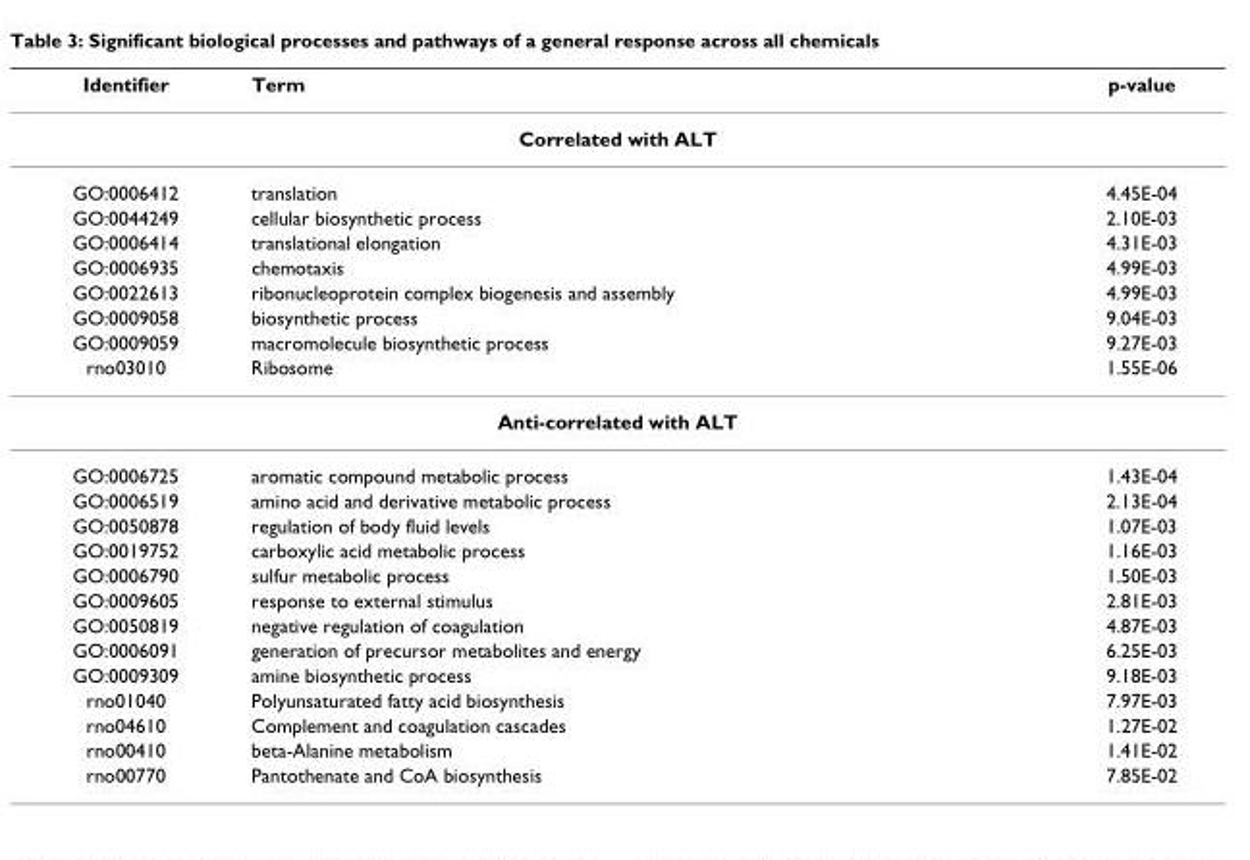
<table><thead><tr><td>Identifier</td><td>Term</td><td>p-value</td></tr></thead><tbody><tr><td colspan="3">Correlated with ALT</td></tr><tr><td>GO:0006412</td><td>translation</td><td>4.45E-04</td></tr><tr><td>GO:0044249</td><td>cellular biosynthetic process</td><td>2.10E-03</td></tr><tr><td>GO:0006414</td><td>translational elongation</td><td>4.31E-03</td></tr><tr><td>GO:0006935</td><td>chemotaxis</td><td>4.99E-03</td></tr><tr><td>GO:0022613</td><td>ribonucleoprotein complex biogenesis and assembly</td><td>4.99E-03</td></tr><tr><td>GO:0009058</td><td>biosynthetic process</td><td>9.04E-03</td></tr><tr><td>GO:0009059</td><td>macromolecule biosynthetic process</td><td>9.27E-03</td></tr><tr><td>rno03010</td><td>Ribosome</td><td>1.55E-06</td></tr><tr><td colspan="3">Anti-correlated with ALT</td></tr><tr><td>GO:0006725</td><td>aromatic compound metabolic process</td><td>1.43E-04</td></tr><tr><td>GO:0006519</td><td>amino acid and derivative metabolic process</td><td>2.13E-04</td></tr><tr><td>GO:0050878</td><td>regulation of body fluid levels</td><td>1.07E-03</td></tr><tr><td>GO:0019752</td><td>carboxylic acid metabolic process</td><td>1.16E-03</td></tr><tr><td>GO:0006790</td><td>sulfur metabolic process</td><td>1.50E-03</td></tr><tr><td>GO:0009605</td><td>response to external stimulus</td><td>2.81E-03</td></tr><tr><td>GO:0050819</td><td>negative regulation of coagulation</td><td>4.87E-03</td></tr><tr><td>GO:0006091</td><td>generation of precursor metabolites and energy</td><td>6.25E-03</td></tr><tr><td>GO:0009309</td><td>amine biosynthetic process</td><td>9.18E-03</td></tr><tr><td>rno01040</td><td>Polyunsaturated fatty acid biosynthesis</td><td>7.97E-03</td></tr><tr><td>rno04610</td><td>Complement and coagulation cascades</td><td>1.27E-02</td></tr><tr><td>rno00410</td><td>beta-Alanine metabolism</td><td>1.41E-02</td></tr><tr><td>rno00770</td><td>Pantothenate and CoA biosynthesis</td><td>7.85E-02</td></tr></tbody></table>